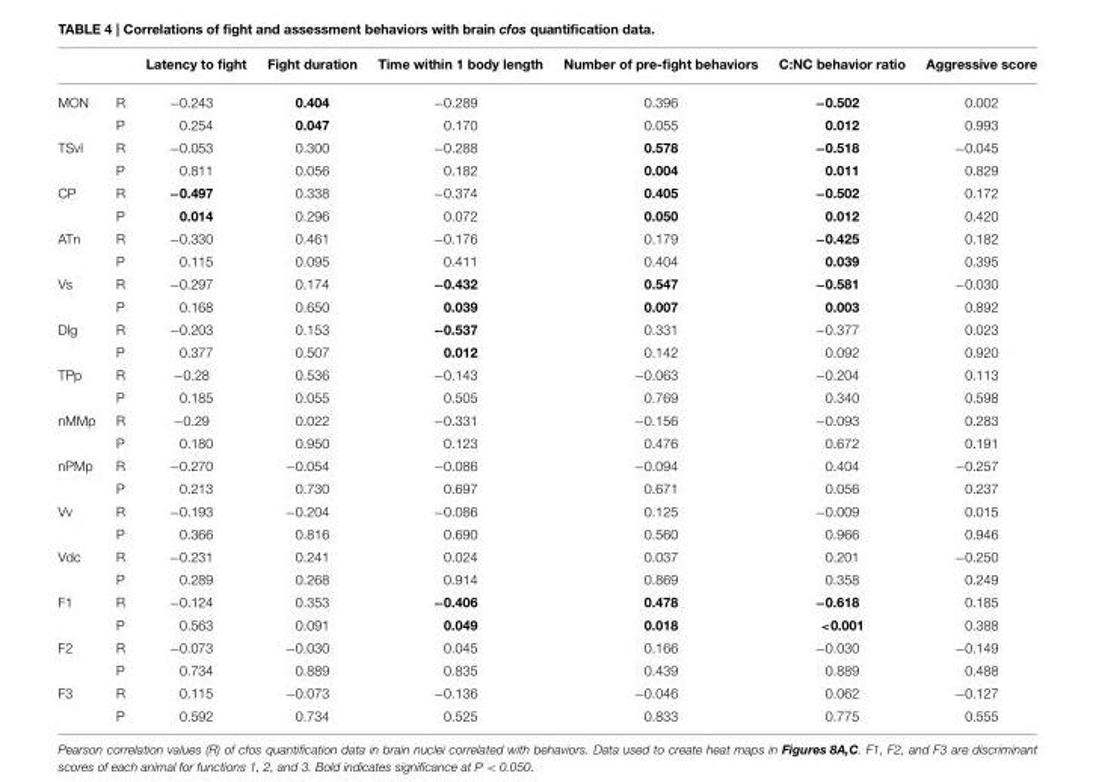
<table><thead><tr><td></td><td></td><td>Latency to fight</td><td>Fight duration</td><td>Time within 1 body length</td><td>Number of pre-fight behaviors</td><td>C:NC behavior ratio</td><td>Aggressive score</td></tr></thead><tbody><tr><td rowspan="2">MON</td><td>R</td><td>−0.243</td><td>0.404</td><td>−0.289</td><td>0.396</td><td>−0.502</td><td>0.002</td></tr><tr><td>P</td><td>0.254</td><td>0.047</td><td>0.170</td><td>0.055</td><td>0.012</td><td>0.993</td></tr><tr><td rowspan="2">TSvl</td><td>R</td><td>−0.053</td><td>0.300</td><td>−0.288</td><td>0.578</td><td>−0.518</td><td>−0.045</td></tr><tr><td>P</td><td>0.811</td><td>0.056</td><td>0.182</td><td>0.004</td><td>0.011</td><td>0.829</td></tr><tr><td rowspan="2">CP</td><td>R</td><td>−0.497</td><td>0.338</td><td>−0.374</td><td>0.405</td><td>−0.502</td><td>0.172</td></tr><tr><td>P</td><td>0.014</td><td>0.296</td><td>0.072</td><td>0.050</td><td>0.012</td><td>0.420</td></tr><tr><td rowspan="2">ATn</td><td>R</td><td>−0.330</td><td>0.461</td><td>−0.176</td><td>0.179</td><td>−0.425</td><td>0.182</td></tr><tr><td>P</td><td>0.115</td><td>0.095</td><td>0.411</td><td>0.404</td><td>0.039</td><td>0.395</td></tr><tr><td rowspan="2">Vs</td><td>R</td><td>−0.297</td><td>0.174</td><td>−0.432</td><td>0.547</td><td>−0.581</td><td>−0.030</td></tr><tr><td>P</td><td>0.168</td><td>0.650</td><td>0.039</td><td>0.007</td><td>0.003</td><td>0.892</td></tr><tr><td rowspan="2">Dlg</td><td>R</td><td>−0.203</td><td>0.153</td><td>−0.537</td><td>0.331</td><td>−0.377</td><td>0.023</td></tr><tr><td>P</td><td>0.377</td><td>0.507</td><td>0.012</td><td>0.142</td><td>0.092</td><td>0.920</td></tr><tr><td rowspan="2">TPp</td><td>R</td><td>−0.28</td><td>0.536</td><td>−0.143</td><td>−0.063</td><td>−0.204</td><td>0.113</td></tr><tr><td>P</td><td>0.185</td><td>0.055</td><td>0.505</td><td>0.769</td><td>0.340</td><td>0.598</td></tr><tr><td rowspan="2">nMMp</td><td>R</td><td>−0.29</td><td>0.022</td><td>−0.331</td><td>−0.156</td><td>−0.093</td><td>0.283</td></tr><tr><td>P</td><td>0.180</td><td>0.950</td><td>0.123</td><td>0.476</td><td>0.672</td><td>0.191</td></tr><tr><td rowspan="2">nPMp</td><td>R</td><td>−0.270</td><td>−0.054</td><td>−0.086</td><td>−0.094</td><td>0.404</td><td>−0.257</td></tr><tr><td>P</td><td>0.213</td><td>0.730</td><td>0.697</td><td>0.671</td><td>0.056</td><td>0.237</td></tr><tr><td rowspan="2">Vv</td><td>R</td><td>−0.193</td><td>−0.204</td><td>−0.086</td><td>0.125</td><td>−0.009</td><td>0.015</td></tr><tr><td>P</td><td>0.366</td><td>0.816</td><td>0.690</td><td>0.560</td><td>0.966</td><td>0.946</td></tr><tr><td rowspan="2">Vdc</td><td>R</td><td>−0.231</td><td>0.241</td><td>0.024</td><td>0.037</td><td>0.201</td><td>−0.250</td></tr><tr><td>P</td><td>0.289</td><td>0.268</td><td>0.914</td><td>0.869</td><td>0.358</td><td>0.249</td></tr><tr><td rowspan="2">F1</td><td>R</td><td>−0.124</td><td>0.353</td><td>−0.406</td><td>0.478</td><td>−0.618</td><td>0.185</td></tr><tr><td>P</td><td>0.563</td><td>0.091</td><td>0.049</td><td>0.018</td><td>&lt;0.001</td><td>0.388</td></tr><tr><td rowspan="2">F2</td><td>R</td><td>−0.073</td><td>−0.030</td><td>0.045</td><td>0.166</td><td>−0.030</td><td>−0.149</td></tr><tr><td>P</td><td>0.734</td><td>0.889</td><td>0.835</td><td>0.439</td><td>0.889</td><td>0.488</td></tr><tr><td rowspan="2">F3</td><td>R</td><td>0.115</td><td>−0.073</td><td>−0.136</td><td>−0.046</td><td>0.062</td><td>−0.127</td></tr><tr><td>P</td><td>0.592</td><td>0.734</td><td>0.525</td><td>0.833</td><td>0.775</td><td>0.555</td></tr></tbody></table>